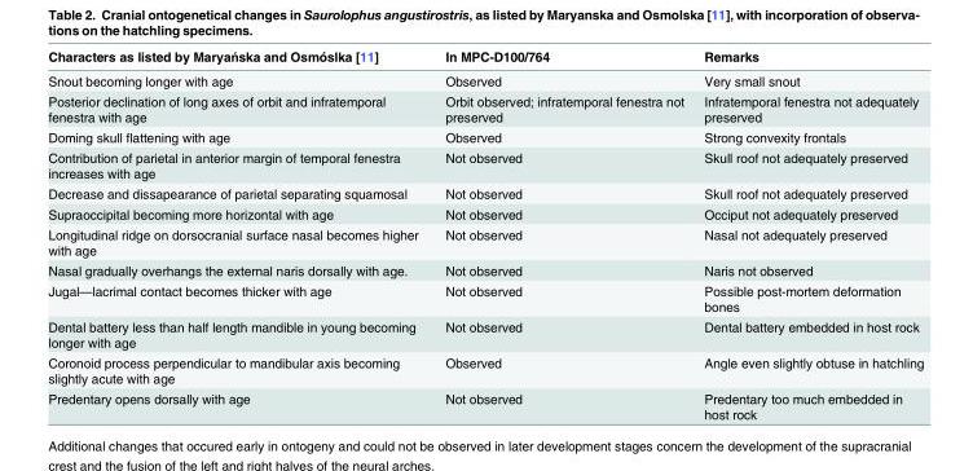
<table><thead><tr><td>Characters as listed by Maryańska and Osmóslka [11]</td><td>In MPC-D100/764</td><td>Remarks</td></tr></thead><tbody><tr><td>Snout becoming longer with age</td><td>Observed</td><td>Very small snout</td></tr><tr><td>Posterior declination of long axes of orbit and infratemporal fenestra with age</td><td>Orbit observed; infratemporal fenestra not preserved</td><td>Infratemporal fenestra not adequately preserved</td></tr><tr><td>Doming skull flattening with age</td><td>Observed</td><td>Strong convexity frontals</td></tr><tr><td>Contribution of parietal in anterior margin of temporal fenestra increases with age</td><td>Not observed</td><td>Skull roof not adequately preserved</td></tr><tr><td>Decrease and dissapearance of parietal separating squamosal</td><td>Not observed</td><td>Skull roof not adequately preserved</td></tr><tr><td>Supraoccipital becoming more horizontal with age</td><td>Not observed</td><td>Occiput not adequately preserved</td></tr><tr><td>Longitudinal ridge on dorsocranial surface nasal becomes higher with age</td><td>Not observed</td><td>Nasal not adequately preserved</td></tr><tr><td>Nasal gradually overhangs the external naris dorsally with age.</td><td>Not observed</td><td>Naris not observed</td></tr><tr><td>Jugal—lacrimal contact becomes thicker with age</td><td>Not observed</td><td>Possible post-mortem deformation bones</td></tr><tr><td>Dental battery less than half length mandible in young becoming longer with age</td><td>Not observed</td><td>Dental battery embedded in host rock</td></tr><tr><td>Coronoid process perpendicular to mandibular axis becoming slightly acute with age</td><td>Observed</td><td>Angle even slightly obtuse in hatchling</td></tr><tr><td>Predentary opens dorsally with age</td><td>Not observed</td><td>Predentary too much embedded in host rock</td></tr></tbody></table>